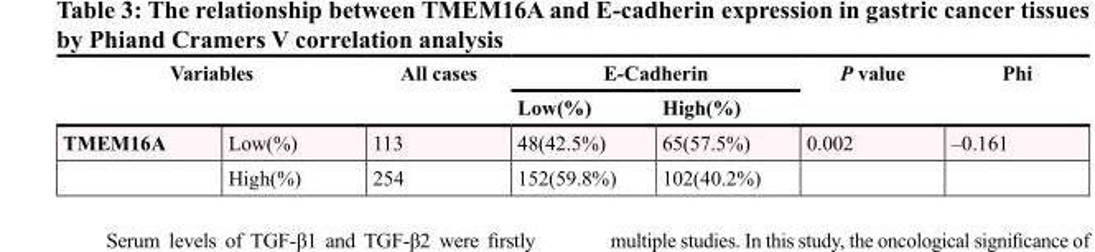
<table><thead><tr><td rowspan="2" colspan="2">Variables</td><td rowspan="3">All cases 113</td><td colspan="2">E-Cadherin</td><td rowspan="3">P value 0.002</td><td rowspan="3">Phi –0.161</td></tr><tr><td rowspan="2">Low(%) 48(42.5%)</td><td rowspan="2">High(%) 65(57.5%)</td></tr><tr><td>TMEM16A</td><td>Low(%)</td></tr></thead><tbody><tr><td></td><td>High(%)</td><td>254</td><td>152(59.8%)</td><td>102(40.2%)</td><td></td><td></td></tr></tbody></table>